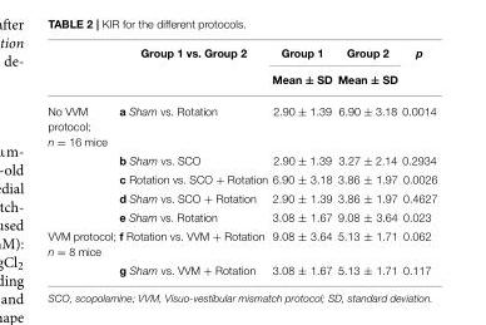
<table><thead><tr><td rowspan="2"></td><td rowspan="2">Group 1 vs. Group 2</td><td rowspan="2">Group 1 Mean ± SD</td><td rowspan="2">Group 2 Mean ± SD</td><td rowspan="2">p</td></tr><tr></tr></thead><tbody><tr><td rowspan="5">No VVM protocol; n = 16 mice</td><td>a Sham vs. Rotation</td><td>2.90 ± 1.39</td><td>6.90 ± 3.18</td><td>0.0014</td></tr><tr><td>b Sham vs. SCO</td><td>2.90 ± 1.39</td><td>3.27 ± 2.14</td><td>0.2934</td></tr><tr><td>c Rotation vs. SCO + Rotation</td><td>6.90 ± 3.18</td><td>3.86 ± 1.97</td><td>0.0026</td></tr><tr><td>d Sham vs. SCO + Rotation</td><td>2.90 ± 1.39</td><td>3.86 ± 1.97</td><td>0.4627</td></tr><tr><td>e Sham vs. Rotation</td><td>3.08 ± 1.67</td><td>9.08 ± 3.64</td><td>0.023</td></tr><tr><td rowspan="2">VVM protocol; n = 8 mice</td><td>f Rotation vs. VVM + Rotation</td><td>9.08 ± 3.64</td><td>5.13 ± 1.71</td><td>0.062</td></tr><tr><td>g Sham vs. VVM + Rotation</td><td>3.08 ± 1.67</td><td>5.13 ± 1.71</td><td>0.117</td></tr></tbody></table>